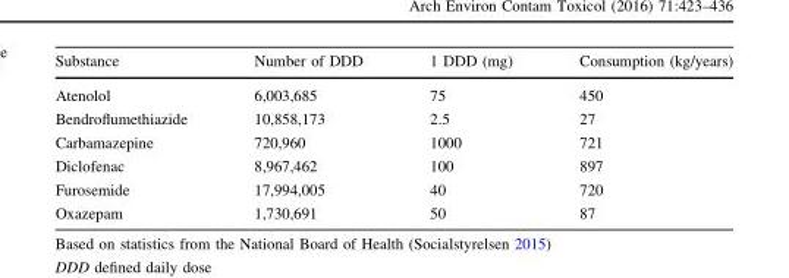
<table><thead><tr><td>Substance</td><td>Number of DDD</td><td>1 DDD (mg)</td><td>Consumption (kg/years)</td></tr></thead><tbody><tr><td>Atenolol</td><td>6,003,685</td><td>75</td><td>450</td></tr><tr><td>Bendroflumethiazide</td><td>10,858,173</td><td>2.5</td><td>27</td></tr><tr><td>Carbamazepine</td><td>720,960</td><td>1000</td><td>721</td></tr><tr><td>Diclofenac</td><td>8,967,462</td><td>100</td><td>897</td></tr><tr><td>Furosemide</td><td>17,994,005</td><td>40</td><td>720</td></tr><tr><td>Oxazepam</td><td>1,730,691</td><td>50</td><td>87</td></tr></tbody></table>